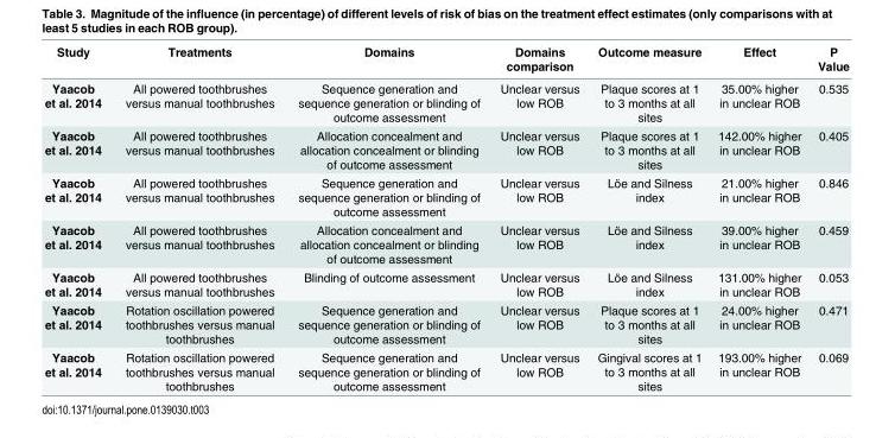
<table><thead><tr><td>Study</td><td>Treatments</td><td>Domains</td><td>Domains comparison</td><td>Outcome measure</td><td>Effect</td><td>P Value</td></tr></thead><tbody><tr><td>Yaacob et al. 2014</td><td>All powered toothbrushes versus manual toothbrushes</td><td>Sequence generation and sequence generation or blinding of outcome assessment</td><td>Unclear versus low ROB</td><td>Plaque scores at 1 to 3 months at all sites</td><td>35.00% higher in unclear ROB</td><td>0.535</td></tr><tr><td>Yaacob et al. 2014</td><td>All powered toothbrushes versus manual toothbrushes</td><td>Allocation concealment and allocation concealment or blinding of outcome assessment</td><td>Unclear versus low ROB</td><td>Plaque scores at 1 to 3 months at all sites</td><td>142.00% higher in unclear ROB</td><td>0.405</td></tr><tr><td>Yaacob et al. 2014</td><td>All powered toothbrushes versus manual toothbrushes</td><td>Sequence generation and sequence generation or blinding of outcome assessment</td><td>Unclear versus low ROB</td><td>Löe and Silness index</td><td>21.00% higher in unclear ROB</td><td>0.846</td></tr><tr><td>Yaacob et al. 2014</td><td>All powered toothbrushes versus manual toothbrushes</td><td>Allocation concealment and allocation concealment or blinding of outcome assessment</td><td>Unclear versus low ROB</td><td>Löe and Silness index</td><td>39.00% higher in unclear ROB</td><td>0.459</td></tr><tr><td>Yaacob et al. 2014</td><td>All powered toothbrushes versus manual toothbrushes</td><td>Blinding of outcome assessment</td><td>Unclear versus low ROB</td><td>Löe and Silness index</td><td>131.00% higher in unclear ROB</td><td>0.053</td></tr><tr><td>Yaacob et al. 2014</td><td>Rotation oscillation powered toothbrushes versus manual toothbrushes</td><td>Sequence generation and sequence generation or blinding of outcome assessment</td><td>Unclear versus low ROB</td><td>Plaque scores at 1 to 3 months at all sites</td><td>24.00% higher in unclear ROB</td><td>0.471</td></tr><tr><td>Yaacob et al. 2014</td><td>Rotation oscillation powered toothbrushes versus manual toothbrushes</td><td>Sequence generation and sequence generation or blinding of outcome assessment</td><td>Unclear versus low ROB</td><td>Gingival scores at 1 to 3 months at all sites</td><td>193.00% higher in unclear ROB</td><td>0.069</td></tr></tbody></table>